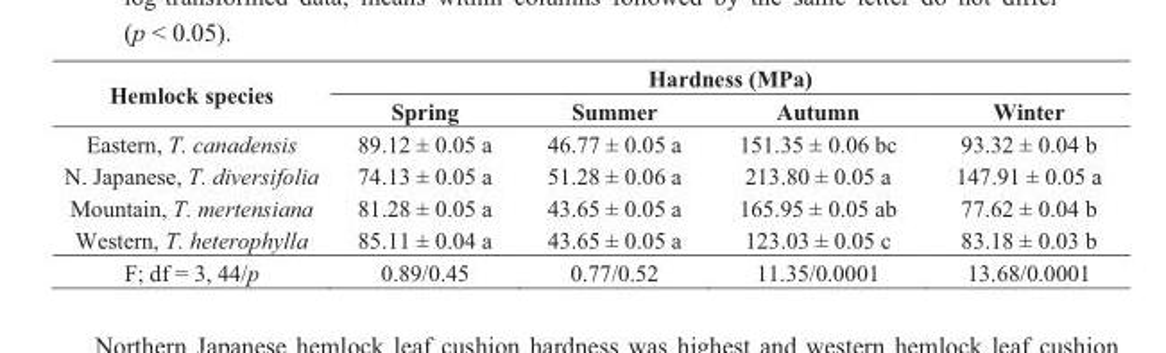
<table><thead><tr><td rowspan="2">Hemlock species</td><td colspan="4">Hardness (MPa)</td></tr><tr><td>Spring</td><td>Summer</td><td>Autumn</td><td>Winter</td></tr></thead><tbody><tr><td>Eastern, T. canadensis</td><td>89.12 ± 0.05 a</td><td>46.77 ± 0.05 a</td><td>151.35 ± 0.06 bc</td><td>93.32 ± 0.04 b</td></tr><tr><td>N. Japanese, T. diversifolia</td><td>74.13 ± 0.05 a</td><td>51.28 ± 0.06 a</td><td>213.80 ± 0.05 a</td><td>147.91 ± 0.05 a</td></tr><tr><td>Mountain, T. mertensiana</td><td>81.28 ± 0.05 a</td><td>43.65 ± 0.05 a</td><td>165.95 ± 0.05 ab</td><td>77.62 ± 0.04 b</td></tr><tr><td>Western, T. heterophylla</td><td>85.11 ± 0.04 a</td><td>43.65 ± 0.05 a</td><td>123.03 ± 0.05 c</td><td>83.18 ± 0.03 b</td></tr><tr><td>F; df = 3, 44/p</td><td>0.89/0.45</td><td>0.77/0.52</td><td>11.35/0.0001</td><td>13.68/0.0001</td></tr></tbody></table>